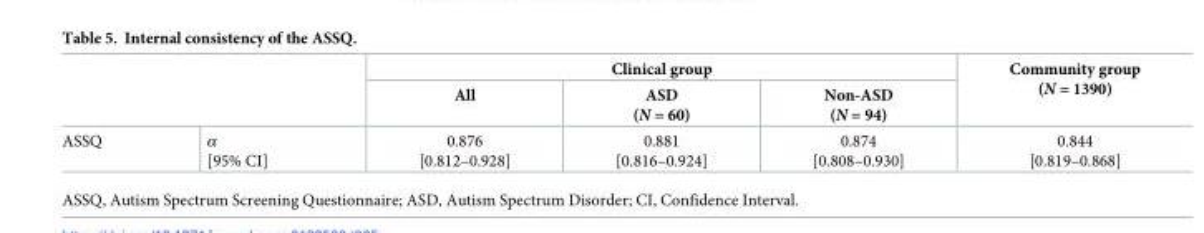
<table><thead><tr><td rowspan="2"></td><td rowspan="2"></td><td colspan="3">Clinical group</td><td rowspan="2">Community group (N = 1390)</td></tr><tr><td>All</td><td>ASD (N = 60)</td><td>Non-ASD (N = 94)</td></tr></thead><tbody><tr><td>ASSQ</td><td>α [95% CI]</td><td>0.876 [0.812–0.928]</td><td>0.881 [0.816–0.924]</td><td>0.874 [0.808–0.930]</td><td>0.844 [0.819–0.868]</td></tr></tbody></table>